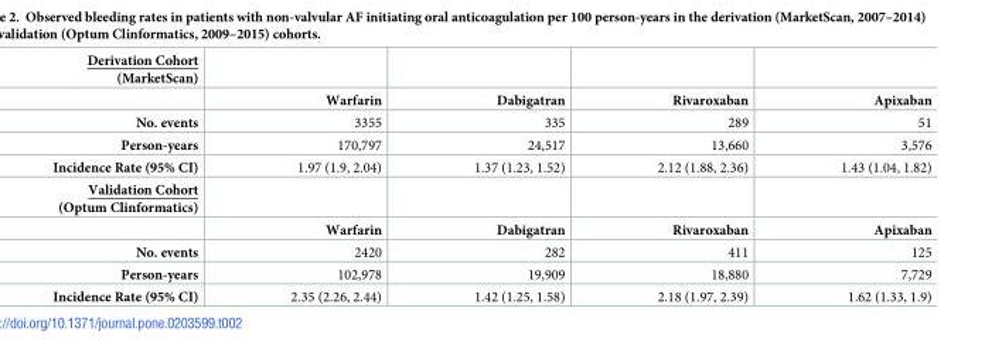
<table><tbody><tr><td colspan="5">Derivation Cohort (MarketScan)</td></tr><tr><td></td><td>Warfarin</td><td>Dabigatran</td><td>Rivaroxaban</td><td>Apixaban</td></tr><tr><td>No. events</td><td>3355</td><td>335</td><td>289</td><td>51</td></tr><tr><td>Person-years</td><td>170,797</td><td>24,517</td><td>13,660</td><td>3,576</td></tr><tr><td>Incidence Rate (95% CI)</td><td>1.97 (1.9, 2.04)</td><td>1.37 (1.23, 1.52)</td><td>2.12 (1.88, 2.36)</td><td>1.43 (1.04, 1.82)</td></tr><tr><td colspan="5">Validation Cohort (Optum Clinformatics)</td></tr><tr><td></td><td>Warfarin</td><td>Dabigatran</td><td>Rivaroxaban</td><td>Apixaban</td></tr><tr><td>No. events</td><td>2420</td><td>282</td><td>411</td><td>125</td></tr><tr><td>Person-years</td><td>102,978</td><td>19,909</td><td>18,880</td><td>7,729</td></tr><tr><td>Incidence Rate (95% CI)</td><td>2.35 (2.26, 2.44)</td><td>1.42 (1.25, 1.58)</td><td>2.18 (1.97, 2.39)</td><td>1.62 (1.33, 1.9)</td></tr></tbody></table>